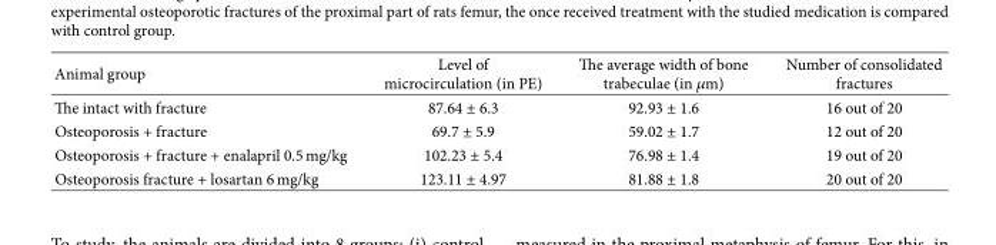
<table><thead><tr><td>Animal group</td><td>Level of microcirculation (in PE)</td><td>e average width of bone trabeculae (in 𝜇𝜇𝜇𝜇m)</td><td>Number of consolidated fractures</td></tr></thead><tbody><tr><td>e intact with fracture</td><td>87.64 ± 6.3</td><td>92.93 ± 1.6</td><td>16 out of 20</td></tr><tr><td>Osteoporosis + fracture</td><td>69.7 ± 5.9</td><td>59.02 ± 1.7</td><td>12 out of 20</td></tr><tr><td>Osteoporosis + fracture + enalapril 0.5 mg/kg</td><td>102.23 ± 5.4</td><td>76.98 ± 1.4</td><td>19 out of 20</td></tr><tr><td>Osteoporosis fracture + losartan 6 mg/kg</td><td>123.11 ± 4.97</td><td>81.88 ± 1.8</td><td>20 out of 20</td></tr></tbody></table>